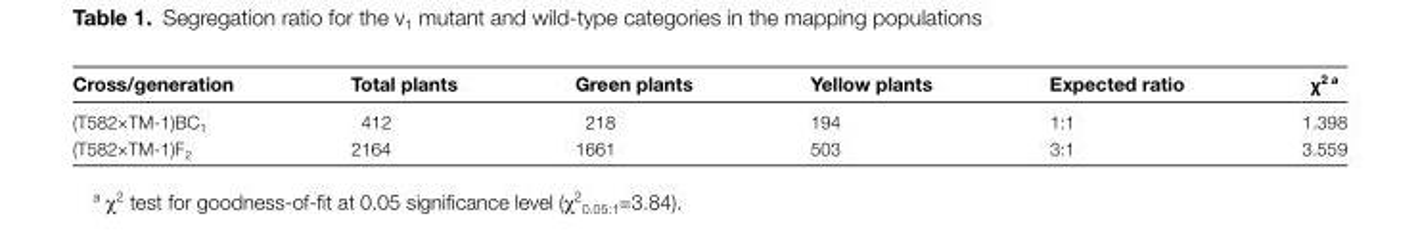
<table><thead><tr><td>Cross/generation</td><td>Total plants</td><td>Green plants</td><td>Yellow plants</td><td>Expected ratio</td><td>χ<sup>2 a</sup></td></tr></thead><tbody><tr><td>(T582×TM-1)BC<sub>1</sub></td><td>412</td><td>218</td><td>194</td><td>1:1</td><td>1.398</td></tr><tr><td>(T582×TM-1)F<sub>2</sub></td><td>2164</td><td>1661</td><td>503</td><td>3:1</td><td>3.559</td></tr></tbody></table>